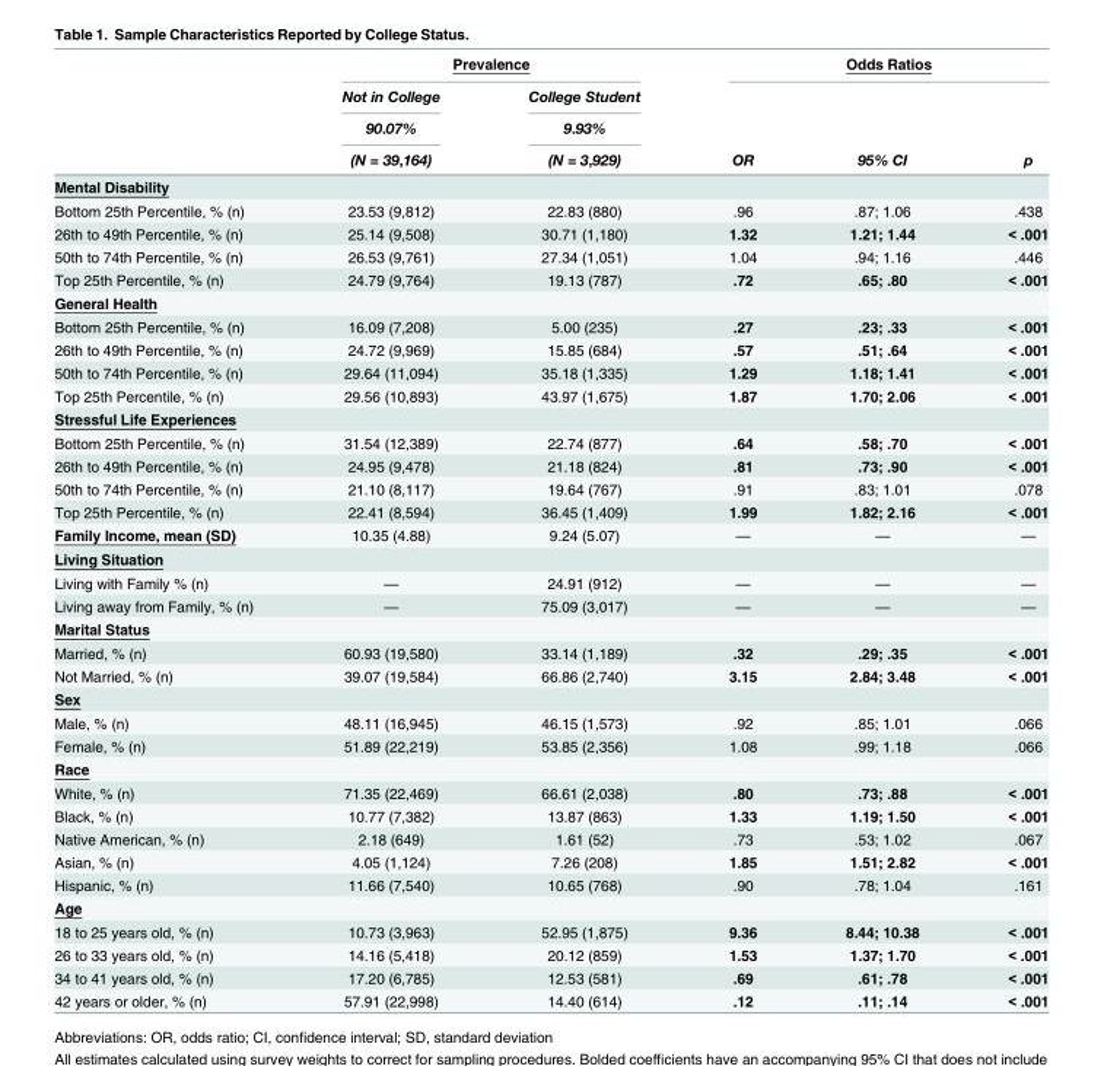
<table><thead><tr><td rowspan="4"></td><td colspan="2">Prevalence</td><td colspan="3">Odds Ratios</td></tr><tr><td rowspan="3">Not in College 90.07% (N = 39,164)</td><td rowspan="3">College Student 9.93% (N = 3,929)</td><td rowspan="3">OR</td><td rowspan="3">95% CI</td><td rowspan="3">p</td></tr><tr></tr><tr></tr></thead><tbody><tr><td colspan="6">Mental Disability</td></tr><tr><td>Bottom 25th Percentile, % (n)</td><td>23.53 (9,812)</td><td>22.83 (880)</td><td>.96</td><td>.87; 1.06</td><td>.438</td></tr><tr><td>26th to 49th Percentile, % (n)</td><td>25.14 (9,508)</td><td>30.71 (1,180)</td><td>1.32</td><td>1.21; 1.44</td><td>&lt; .001</td></tr><tr><td>50th to 74th Percentile, % (n)</td><td>26.53 (9,761)</td><td>27.34 (1,051)</td><td>1.04</td><td>.94; 1.16</td><td>.446</td></tr><tr><td>Top 25th Percentile, % (n)</td><td>24.79 (9,764)</td><td>19.13 (787)</td><td>.72</td><td>.65; .80</td><td>&lt; .001</td></tr><tr><td colspan="6">General Health</td></tr><tr><td>Bottom 25th Percentile, % (n)</td><td>16.09 (7,208)</td><td>5.00 (235)</td><td>.27</td><td>.23; .33</td><td>&lt; .001</td></tr><tr><td>26th to 49th Percentile, % (n)</td><td>24.72 (9,969)</td><td>15.85 (684)</td><td>.57</td><td>.51; .64</td><td>&lt; .001</td></tr><tr><td>50th to 74th Percentile, % (n)</td><td>29.64 (11,094)</td><td>35.18 (1,335)</td><td>1.29</td><td>1.18; 1.41</td><td>&lt; .001</td></tr><tr><td>Top 25th Percentile, % (n)</td><td>29.56 (10,893)</td><td>43.97 (1,675)</td><td>1.87</td><td>1.70; 2.06</td><td>&lt; .001</td></tr><tr><td colspan="6">Stressful Life Experiences</td></tr><tr><td>Bottom 25th Percentile, % (n)</td><td>31.54 (12,389)</td><td>22.74 (877)</td><td>.64</td><td>.58; .70</td><td>&lt; .001</td></tr><tr><td>26th to 49th Percentile, % (n)</td><td>24.95 (9,478)</td><td>21.18 (824)</td><td>.81</td><td>.73; .90</td><td>&lt; .001</td></tr><tr><td>50th to 74th Percentile, % (n)</td><td>21.10 (8,117)</td><td>19.64 (767)</td><td>.91</td><td>.83; 1.01</td><td>.078</td></tr><tr><td>Top 25th Percentile, % (n)</td><td>22.41 (8,594)</td><td>36.45 (1,409)</td><td>1.99</td><td>1.82; 2.16</td><td>&lt; .001</td></tr><tr><td>Family Income, mean (SD)</td><td>10.35 (4.88)</td><td>9.24 (5.07)</td><td>—</td><td>—</td><td>—</td></tr><tr><td colspan="6">Living Situation</td></tr><tr><td>Living with Family % (n)</td><td>—</td><td>24.91 (912)</td><td>—</td><td>—</td><td>—</td></tr><tr><td>Living away from Family, % (n)</td><td>—</td><td>75.09 (3,017)</td><td>—</td><td>—</td><td>—</td></tr><tr><td colspan="6">Marital Status</td></tr><tr><td>Married, % (n)</td><td>60.93 (19,580)</td><td>33.14 (1,189)</td><td>.32</td><td>.29; .35</td><td>&lt; .001</td></tr><tr><td>Not Married, % (n)</td><td>39.07 (19,584)</td><td>66.86 (2,740)</td><td>3.15</td><td>2.84; 3.48</td><td>&lt; .001</td></tr><tr><td colspan="6">Sex</td></tr><tr><td>Male, % (n)</td><td>48.11 (16,945)</td><td>46.15 (1,573)</td><td>.92</td><td>.85; 1.01</td><td>.066</td></tr><tr><td>Female, % (n)</td><td>51.89 (22,219)</td><td>53.85 (2,356)</td><td>1.08</td><td>.99; 1.18</td><td>.066</td></tr><tr><td colspan="6">Race</td></tr><tr><td>White, % (n)</td><td>71.35 (22,469)</td><td>66.61 (2,038)</td><td>.80</td><td>.73; .88</td><td>&lt; .001</td></tr><tr><td>Black, % (n)</td><td>10.77 (7,382)</td><td>13.87 (863)</td><td>1.33</td><td>1.19; 1.50</td><td>&lt; .001</td></tr><tr><td>Native American, % (n)</td><td>2.18 (649)</td><td>1.61 (52)</td><td>.73</td><td>.53; 1.02</td><td>.067</td></tr><tr><td>Asian, % (n)</td><td>4.05 (1,124)</td><td>7.26 (208)</td><td>1.85</td><td>1.51; 2.82</td><td>&lt; .001</td></tr><tr><td>Hispanic, % (n)</td><td>11.66 (7,540)</td><td>10.65 (768)</td><td>.90</td><td>.78; 1.04</td><td>.161</td></tr><tr><td colspan="6">Age</td></tr><tr><td>18 to 25 years old, % (n)</td><td>10.73 (3,963)</td><td>52.95 (1,875)</td><td>9.36</td><td>8.44; 10.38</td><td>&lt; .001</td></tr><tr><td>26 to 33 years old, % (n)</td><td>14.16 (5,418)</td><td>20.12 (859)</td><td>1.53</td><td>1.37; 1.70</td><td>&lt; .001</td></tr><tr><td>34 to 41 years old, % (n)</td><td>17.20 (6,785)</td><td>12.53 (581)</td><td>.69</td><td>.61; .78</td><td>&lt; .001</td></tr><tr><td>42 years or older, % (n)</td><td>57.91 (22,998)</td><td>14.40 (614)</td><td>.12</td><td>.11; .14</td><td>&lt; .001</td></tr></tbody></table>